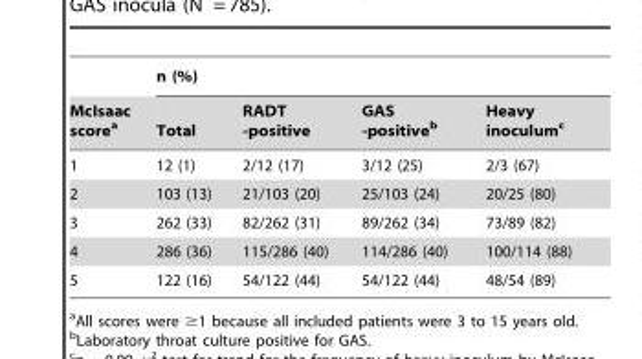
<table><thead><tr><td rowspan="2">McIsaac score<sup>a</sup></td><td colspan="4">n (%)</td></tr><tr><td>Total</td><td>RADT -positive</td><td>GAS -positive<sup>b</sup></td><td>Heavy inoculum<sup>c</sup></td></tr></thead><tbody><tr><td>1</td><td>12 (1)</td><td>2/12 (17)</td><td>3/12 (25)</td><td>2/3 (67)</td></tr><tr><td>2</td><td>103 (13)</td><td>21/103 (20)</td><td>25/103 (24)</td><td>20/25 (80)</td></tr><tr><td>3</td><td>262 (33)</td><td>82/262 (31)</td><td>89/262 (34)</td><td>73/89 (82)</td></tr><tr><td>4</td><td>286 (36)</td><td>115/286 (40)</td><td>114/286 (40)</td><td>100/114 (88)</td></tr><tr><td>5</td><td>122 (16)</td><td>54/122 (44)</td><td>54/122 (44)</td><td>48/54 (89)</td></tr></tbody></table>